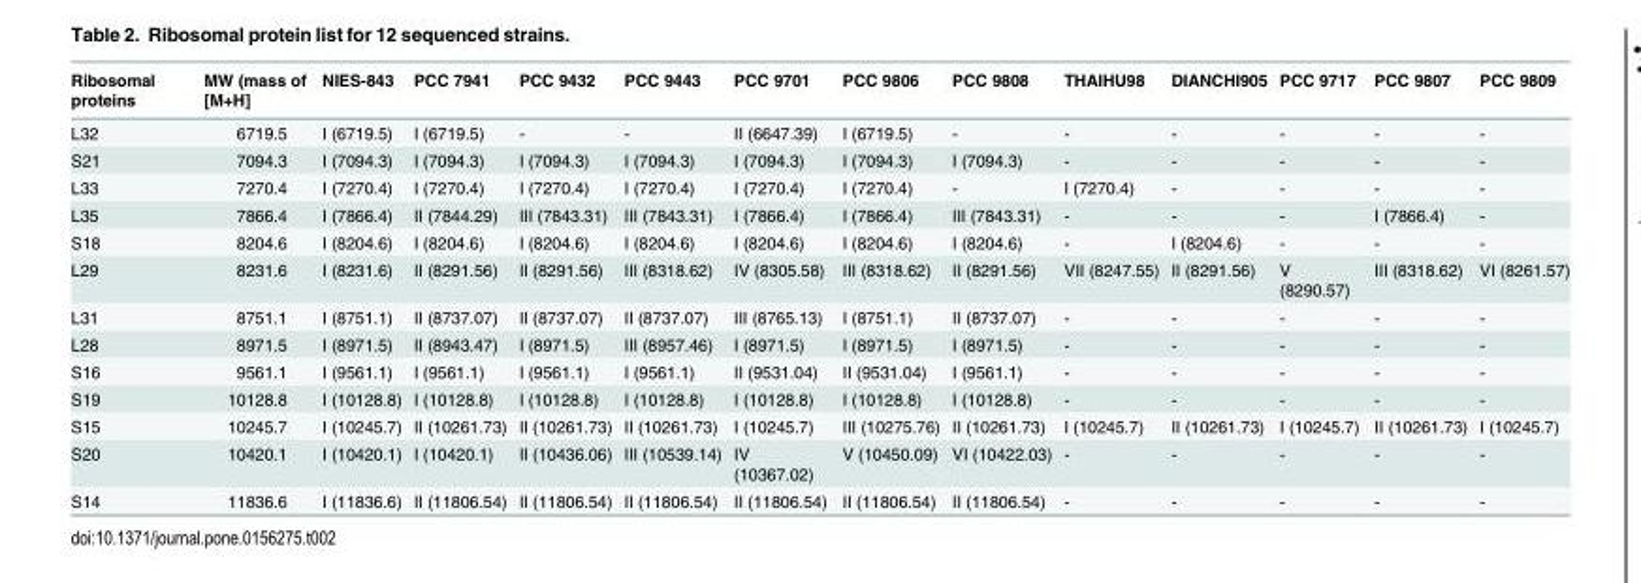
<table><thead><tr><td>Ribosomal proteins</td><td>MW (mass of [M+H]</td><td>NIES-843</td><td>PCC 7941</td><td>PCC 9432</td><td>PCC 9443</td><td>PCC 9701</td><td>PCC 9806</td><td>PCC 9808</td><td>THAIHU98</td><td>DIANCHI905</td><td>PCC 9717</td><td>PCC 9807</td><td>PCC 9809</td></tr></thead><tbody><tr><td>L32</td><td>6719.5</td><td>I (6719.5)</td><td>I (6719.5)</td><td>-</td><td>-</td><td>II (6647.39)</td><td>I (6719.5)</td><td>-</td><td>-</td><td>-</td><td>-</td><td>-</td><td>-</td></tr><tr><td>S21</td><td>7094.3</td><td>I (7094.3)</td><td>I (7094.3)</td><td>I (7094.3)</td><td>I (7094.3)</td><td>I (7094.3)</td><td>I (7094.3)</td><td>I (7094.3)</td><td>-</td><td>-</td><td>-</td><td>-</td><td>-</td></tr><tr><td>L33</td><td>7270.4</td><td>I (7270.4)</td><td>I (7270.4)</td><td>I (7270.4)</td><td>I (7270.4)</td><td>I (7270.4)</td><td>I (7270.4)</td><td>-</td><td>I (7270.4)</td><td>-</td><td>-</td><td>-</td><td>-</td></tr><tr><td>L35</td><td>7866.4</td><td>I (7866.4)</td><td>II (7844.29)</td><td>III (7843.31)</td><td>III (7843.31)</td><td>I (7866.4)</td><td>I (7866.4)</td><td>III (7843.31)</td><td>-</td><td>-</td><td>-</td><td>I (7866.4)</td><td>-</td></tr><tr><td>S18</td><td>8204.6</td><td>I (8204.6)</td><td>I (8204.6)</td><td>I (8204.6)</td><td>I (8204.6)</td><td>I (8204.6)</td><td>I (8204.6)</td><td>I (8204.6)</td><td>-</td><td>I (8204.6)</td><td>-</td><td>-</td><td>-</td></tr><tr><td>L29</td><td>8231.6</td><td>I (8231.6)</td><td>II (8291.56)</td><td>II (8291.56)</td><td>III (8318.62)</td><td>IV (8305.58)</td><td>III (8318.62)</td><td>II (8291.56)</td><td>VII (8247.55)</td><td>II (8291.56)</td><td>V (8290.57)</td><td>III (8318.62)</td><td>VI (8261.57)</td></tr><tr><td>L31</td><td>8751.1</td><td>I (8751.1)</td><td>II (8737.07)</td><td>II (8737.07)</td><td>II (8737.07)</td><td>III (8765.13)</td><td>I (8751.1)</td><td>II (8737.07)</td><td>-</td><td>-</td><td>-</td><td>-</td><td>-</td></tr><tr><td>L28</td><td>8971.5</td><td>I (8971.5)</td><td>II (8943.47)</td><td>I (8971.5)</td><td>III (8957.46)</td><td>I (8971.5)</td><td>I (8971.5)</td><td>I (8971.5)</td><td>-</td><td>-</td><td>-</td><td>-</td><td>-</td></tr><tr><td>S16</td><td>9561.1</td><td>I (9561.1)</td><td>I (9561.1)</td><td>I (9561.1)</td><td>I (9561.1)</td><td>II (9531.04)</td><td>II (9531.04)</td><td>I (9561.1)</td><td>-</td><td>-</td><td>-</td><td>-</td><td>-</td></tr><tr><td>S19</td><td>10128.8</td><td>I (10128.8)</td><td>I (10128.8)</td><td>I (10128.8)</td><td>I (10128.8)</td><td>I (10128.8)</td><td>I (10128.8)</td><td>I (10128.8)</td><td>-</td><td>-</td><td>-</td><td>-</td><td>-</td></tr><tr><td>S15</td><td>10245.7</td><td>I (10245.7)</td><td>II (10261.73)</td><td>II (10261.73)</td><td>II (10261.73)</td><td>I (10245.7)</td><td>III (10275.76)</td><td>II (10261.73)</td><td>I (10245.7)</td><td>II (10261.73)</td><td>I (10245.7)</td><td>II (10261.73)</td><td>I (10245.7)</td></tr><tr><td>S20</td><td>10420.1</td><td>I (10420.1)</td><td>I (10420.1)</td><td>II (10436.06)</td><td>III (10539.14)</td><td>IV (10367.02)</td><td>V (10450.09)</td><td>VI (10422.03)</td><td>-</td><td>-</td><td>-</td><td>-</td><td>-</td></tr><tr><td>S14</td><td>11836.6</td><td>I (11836.6)</td><td>II (11806.54)</td><td>II (11806.54)</td><td>II (11806.54)</td><td>II (11806.54)</td><td>II (11806.54)</td><td>II (11806.54)</td><td>-</td><td>-</td><td>-</td><td>-</td><td>-</td></tr></tbody></table>